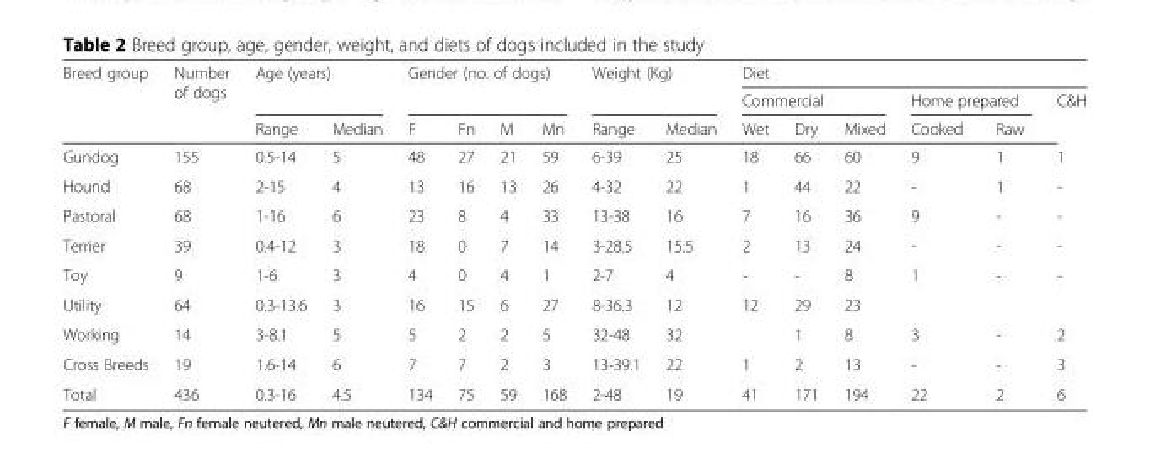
<table><thead><tr><td rowspan="3">Breed group</td><td rowspan="3">Number of dogs</td><td rowspan="2" colspan="2">Age (years)</td><td rowspan="2" colspan="4">Gender (no. of dogs)</td><td rowspan="2" colspan="2">Weight (Kg)</td><td colspan="6">Diet</td></tr><tr><td colspan="3">Commercial</td><td colspan="2">Home prepared</td><td rowspan="2">C&amp;H</td></tr><tr><td>Range</td><td>Median</td><td>F</td><td>Fn</td><td>M</td><td>Mn</td><td>Range</td><td>Median</td><td>Wet</td><td>Dry</td><td>Mixed</td><td>Cooked</td><td>Raw</td></tr></thead><tbody><tr><td>Gundog</td><td>155</td><td>0.5-14</td><td>5</td><td>48</td><td>27</td><td>21</td><td>59</td><td>6-39</td><td>25</td><td>18</td><td>66</td><td>60</td><td>9</td><td>1</td><td>1</td></tr><tr><td>Hound</td><td>68</td><td>2-15</td><td>4</td><td>13</td><td>16</td><td>13</td><td>26</td><td>4-32</td><td>22</td><td>1</td><td>44</td><td>22</td><td>-</td><td>1</td><td>-</td></tr><tr><td>Pastoral</td><td>68</td><td>1-16</td><td>6</td><td>23</td><td>8</td><td>4</td><td>33</td><td>13-38</td><td>16</td><td>7</td><td>16</td><td>36</td><td>9</td><td>-</td><td>-</td></tr><tr><td>Terrier</td><td>39</td><td>0.4-12</td><td>3</td><td>18</td><td>0</td><td>7</td><td>14</td><td>3-28.5</td><td>15.5</td><td>2</td><td>13</td><td>24</td><td>-</td><td>-</td><td>-</td></tr><tr><td>Toy</td><td>9</td><td>1-6</td><td>3</td><td>4</td><td>0</td><td>4</td><td>1</td><td>2-7</td><td>4</td><td>-</td><td>-</td><td>8</td><td>1</td><td>-</td><td>-</td></tr><tr><td>Utility</td><td>64</td><td>0.3-13.6</td><td>3</td><td>16</td><td>15</td><td>6</td><td>27</td><td>8-36.3</td><td>12</td><td>12</td><td>29</td><td>23</td><td></td><td></td><td></td></tr><tr><td>Working</td><td>14</td><td>3-8.1</td><td>5</td><td>5</td><td>2</td><td>2</td><td>5</td><td>32-48</td><td>32</td><td></td><td>1</td><td>8</td><td>3</td><td>-</td><td>2</td></tr><tr><td>Cross Breeds</td><td>19</td><td>1.6-14</td><td>6</td><td>7</td><td>7</td><td>2</td><td>3</td><td>13-39.1</td><td>22</td><td>1</td><td>2</td><td>13</td><td>-</td><td>-</td><td>3</td></tr><tr><td>Total</td><td>436</td><td>0.3-16</td><td>4.5</td><td>134</td><td>75</td><td>59</td><td>168</td><td>2-48</td><td>19</td><td>41</td><td>171</td><td>194</td><td>22</td><td>2</td><td>6</td></tr></tbody></table>